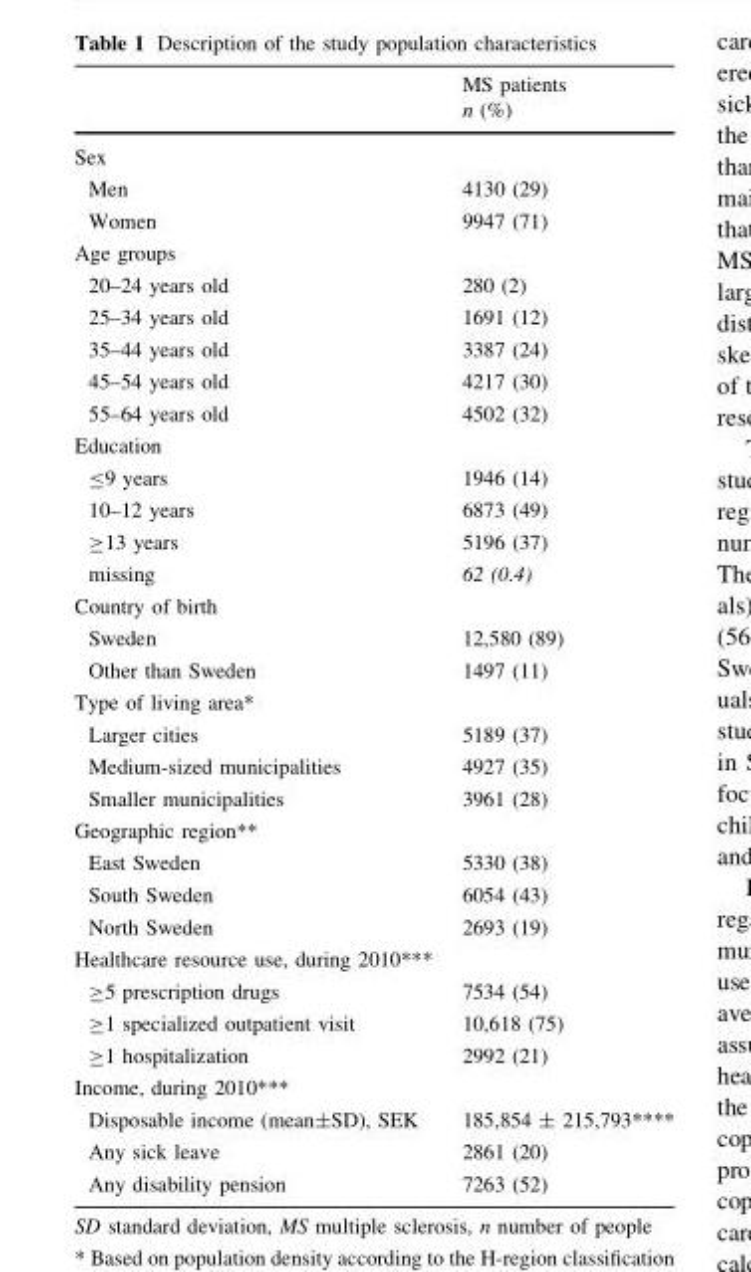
<table><thead><tr><td rowspan="2"></td><td rowspan="2">MS patients n (%)</td></tr><tr></tr></thead><tbody><tr><td colspan="2">Sex</td></tr><tr><td>Men</td><td>4130 (29)</td></tr><tr><td>Women</td><td>9947 (71)</td></tr><tr><td colspan="2">Age groups</td></tr><tr><td>20–24 years old</td><td>280 (2)</td></tr><tr><td>25–34 years old</td><td>1691 (12)</td></tr><tr><td>35–44 years old</td><td>3387 (24)</td></tr><tr><td>45–54 years old</td><td>4217 (30)</td></tr><tr><td>55–64 years old</td><td>4502 (32)</td></tr><tr><td colspan="2">Education</td></tr><tr><td>≤9 years</td><td>1946 (14)</td></tr><tr><td>10–12 years</td><td>6873 (49)</td></tr><tr><td>≥13 years</td><td>5196 (37)</td></tr><tr><td>missing</td><td>62 (0.4)</td></tr><tr><td colspan="2">Country of birth</td></tr><tr><td>Sweden</td><td>12,580 (89)</td></tr><tr><td>Other than Sweden</td><td>1497 (11)</td></tr><tr><td colspan="2">Type of living area*</td></tr><tr><td>Larger cities</td><td>5189 (37)</td></tr><tr><td>Medium-sized municipalities</td><td>4927 (35)</td></tr><tr><td>Smaller municipalities</td><td>3961 (28)</td></tr><tr><td colspan="2">Geographic region**</td></tr><tr><td>East Sweden</td><td>5330 (38)</td></tr><tr><td>South Sweden</td><td>6054 (43)</td></tr><tr><td>North Sweden</td><td>2693 (19)</td></tr><tr><td colspan="2">Healthcare resource use, during 2010***</td></tr><tr><td>≥5 prescription drugs</td><td>7534 (54)</td></tr><tr><td>≥1 specialized outpatient visit</td><td>10,618 (75)</td></tr><tr><td>≥1 hospitalization</td><td>2992 (21)</td></tr><tr><td colspan="2">Income, during 2010***</td></tr><tr><td>Disposable income (mean±SD), SEK</td><td>185,854 ± 215,793****</td></tr><tr><td>Any sick leave</td><td>2861 (20)</td></tr><tr><td>Any disability pension</td><td>7263 (52)</td></tr></tbody></table>